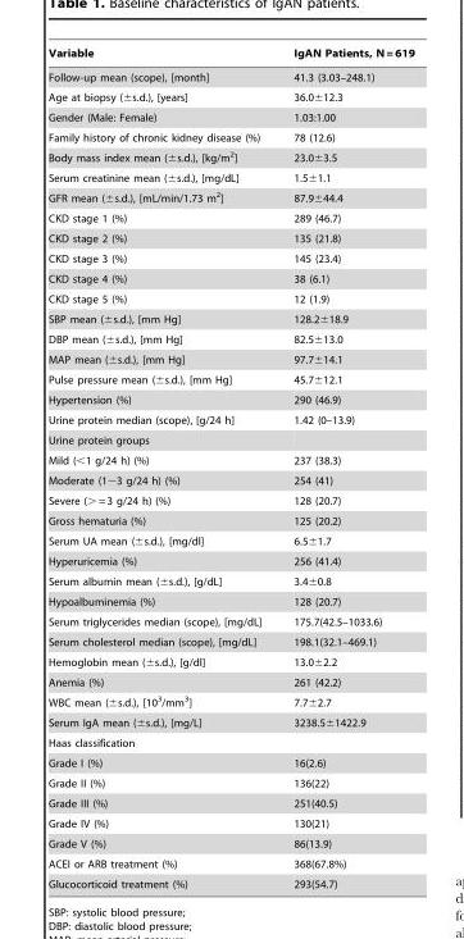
<table><thead><tr><td>Variable</td><td>IgAN Patients, N = 619</td></tr></thead><tbody><tr><td>Follow-up mean (scope), [month]</td><td>41.3 (3.03–248.1)</td></tr><tr><td>Age at biopsy (±s.d.), [years]</td><td>36.0±12.3</td></tr><tr><td>Gender (Male: Female)</td><td>1.03:1.00</td></tr><tr><td>Family history of chronic kidney disease (%)</td><td>78 (12.6)</td></tr><tr><td>Body mass index mean (±s.d.), [kg/m<sup>2</sup>]</td><td>23.0±3.5</td></tr><tr><td>Serum creatinine mean (±s.d.), [mg/dL]</td><td>1.5±1.1</td></tr><tr><td>GFR mean (±s.d.), [mL/min/1.73 m<sup>2</sup>]</td><td>87.9±44.4</td></tr><tr><td>CKD stage 1 (%)</td><td>289 (46.7)</td></tr><tr><td>CKD stage 2 (%)</td><td>135 (21.8)</td></tr><tr><td>CKD stage 3 (%)</td><td>145 (23.4)</td></tr><tr><td>CKD stage 4 (%)</td><td>38 (6.1)</td></tr><tr><td>CKD stage 5 (%)</td><td>12 (1.9)</td></tr><tr><td>SBP mean (±s.d.), [mm Hg]</td><td>128.2±18.9</td></tr><tr><td>DBP mean (±s.d.), [mm Hg]</td><td>82.5±13.0</td></tr><tr><td>MAP mean (±s.d.), [mm Hg]</td><td>97.7±14.1</td></tr><tr><td>Pulse pressure mean (±s.d.), [mm Hg]</td><td>45.7±12.1</td></tr><tr><td>Hypertension (%)</td><td>290 (46.9)</td></tr><tr><td>Urine protein median (scope), [g/24 h]</td><td>1.42 (0–13.9)</td></tr><tr><td colspan="2">Urine protein groups</td></tr><tr><td>Mild (&lt;1 g/24 h) (%)</td><td>237 (38.3)</td></tr><tr><td>Moderate (1∼3 g/24 h) (%)</td><td>254 (41)</td></tr><tr><td>Severe (&gt; = 3 g/24 h) (%)</td><td>128 (20.7)</td></tr><tr><td>Gross hematuria (%)</td><td>125 (20.2)</td></tr><tr><td>Serum UA mean (±s.d.), [mg/dl]</td><td>6.5±1.7</td></tr><tr><td>Hyperuricemia (%)</td><td>256 (41.4)</td></tr><tr><td>Serum albumin mean (±s.d.), [g/dL]</td><td>3.4±0.8</td></tr><tr><td>Hypoalbuminemia (%)</td><td>128 (20.7)</td></tr><tr><td>Serum triglycerides median (scope), [mg/dL]</td><td>175.7(42.5–1033.6)</td></tr><tr><td>Serum cholesterol median (scope), [mg/dL]</td><td>198.1(32.1–469.1)</td></tr><tr><td>Hemoglobin mean (±s.d.), [g/dl]</td><td>13.0±2.2</td></tr><tr><td>Anemia (%)</td><td>261 (42.2)</td></tr><tr><td>WBC mean (±s.d.), [10<sup>3</sup>/mm<sup>3</sup>]</td><td>7.7±2.7</td></tr><tr><td>Serum IgA mean (±s.d.), [mg/L]</td><td>3238.5±1422.9</td></tr><tr><td colspan="2">Haas classification</td></tr><tr><td>Grade I (%)</td><td>16(2.6)</td></tr><tr><td>Grade II (%)</td><td>136(22)</td></tr><tr><td>Grade III (%)</td><td>251(40.5)</td></tr><tr><td>Grade IV (%)</td><td>130(21)</td></tr><tr><td>Grade V (%)</td><td>86(13.9)</td></tr><tr><td>ACEI or ARB treatment (%)</td><td>368(67.8%)</td></tr><tr><td>Glucocorticoid treatment (%)</td><td>293(54.7)</td></tr></tbody></table>